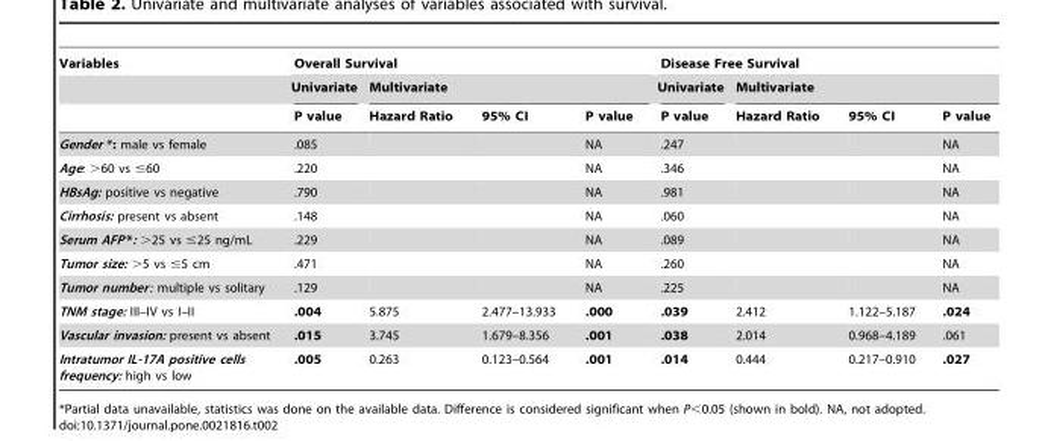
<table><thead><tr><td rowspan="3">Variables</td><td colspan="4">Overall Survival</td><td colspan="4">Disease Free Survival</td></tr><tr><td rowspan="2">Univariate P value</td><td colspan="3">Multivariate</td><td rowspan="2">Univariate P value</td><td colspan="3">Multivariate</td></tr><tr><td>Hazard Ratio</td><td>95% CI</td><td>P value</td><td>Hazard Ratio</td><td>95% CI</td><td>P value</td></tr></thead><tbody><tr><td>Gender * : male vs female</td><td>.085</td><td></td><td></td><td>NA</td><td>.247</td><td></td><td></td><td>NA</td></tr><tr><td>Age: &gt;60 vs ≤60</td><td>.220</td><td></td><td></td><td>NA</td><td>.346</td><td></td><td></td><td>NA</td></tr><tr><td>HBsAg: positive vs negative</td><td>.790</td><td></td><td></td><td>NA</td><td>.981</td><td></td><td></td><td>NA</td></tr><tr><td>Cirrhosis: present vs absent</td><td>.148</td><td></td><td></td><td>NA</td><td>.060</td><td></td><td></td><td>NA</td></tr><tr><td>Serum AFP *: &gt;25 vs ≤25 ng/mL</td><td>.229</td><td></td><td></td><td>NA</td><td>.089</td><td></td><td></td><td>NA</td></tr><tr><td>Tumor size: &gt;5 vs ≤5 cm</td><td>.471</td><td></td><td></td><td>NA</td><td>.260</td><td></td><td></td><td>NA</td></tr><tr><td>Tumor number : multiple vs solitary</td><td>.129</td><td></td><td></td><td>NA</td><td>.225</td><td></td><td></td><td>NA</td></tr><tr><td>TNM stage: III–IV vs I–II</td><td>.004</td><td>5.875</td><td>2.477–13.933</td><td>.000</td><td>.039</td><td>2.412</td><td>1.122–5.187</td><td>.024</td></tr><tr><td>Vascular invasion: present vs absent</td><td>.015</td><td>3.745</td><td>1.679–8.356</td><td>.001</td><td>.038</td><td>2.014</td><td>0.968–4.189</td><td>.061</td></tr><tr><td>Intratumor IL-17A positive cells frequency: high vs low</td><td>.005</td><td>0.263</td><td>0.123–0.564</td><td>.001</td><td>.014</td><td>0.444</td><td>0.217–0.910</td><td>.027</td></tr></tbody></table>